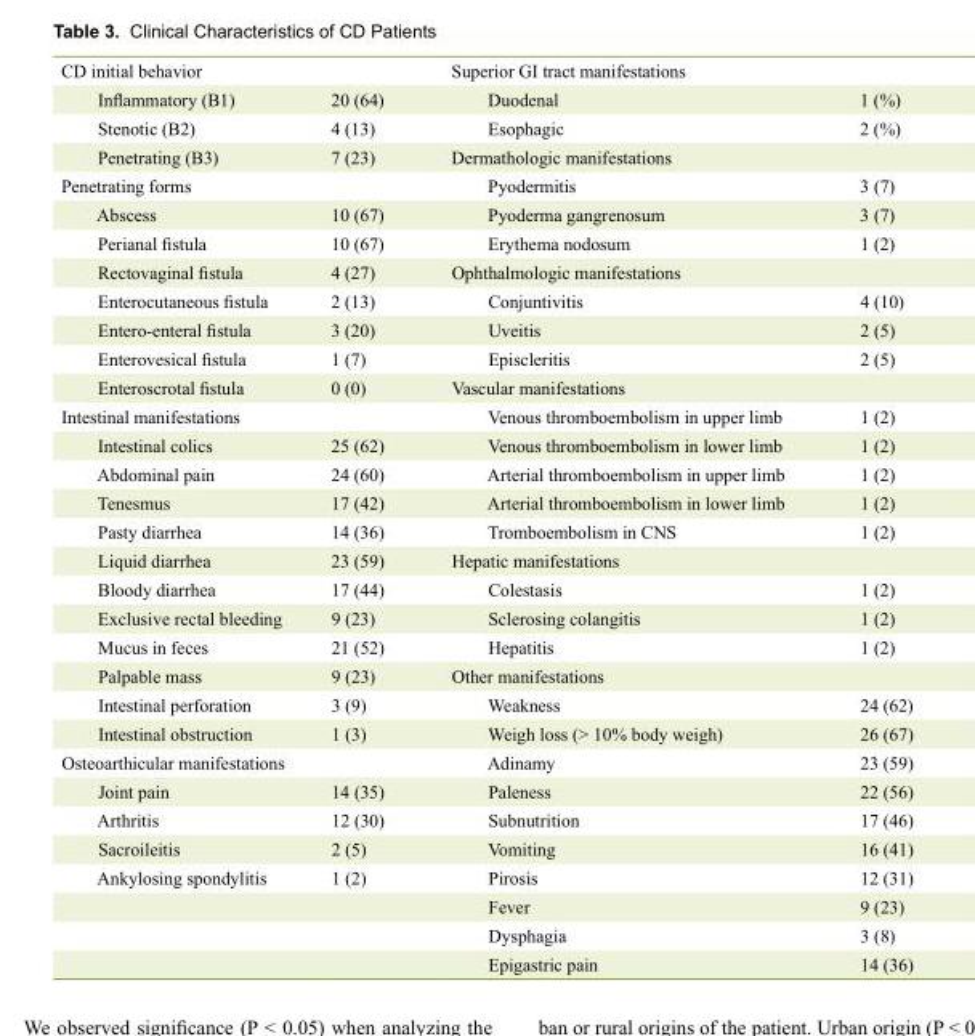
<table><tbody><tr><td>CD initial behavior</td><td></td><td>Superior GI tract manifestations</td><td></td></tr><tr><td>Inflammatory (B1)</td><td>20 (64)</td><td>Duodenal</td><td>1 (%)</td></tr><tr><td>Stenotic (B2)</td><td>4 (13)</td><td>Esophagic</td><td>2 (%)</td></tr><tr><td>Penetrating (B3)</td><td>7 (23)</td><td>Dermathologic manifestations</td><td></td></tr><tr><td>Penetrating forms</td><td></td><td>Pyodermitis</td><td>3 (7)</td></tr><tr><td>Abscess</td><td>10 (67)</td><td>Pyoderma gangrenosum</td><td>3 (7)</td></tr><tr><td>Perianal fistula</td><td>10 (67)</td><td>Erythema nodosum</td><td>1 (2)</td></tr><tr><td>Rectovaginal fistula</td><td>4 (27)</td><td>Ophthalmologic manifestations</td><td></td></tr><tr><td>Enterocutaneous fistula</td><td>2 (13)</td><td>Conjuntivitis</td><td>4 (10)</td></tr><tr><td>Entero-enteral fistula</td><td>3 (20)</td><td>Uveitis</td><td>2 (5)</td></tr><tr><td>Enterovesical fistula</td><td>1 (7)</td><td>Episcleritis</td><td>2 (5)</td></tr><tr><td>Enteroscrotal fistula</td><td>0 (0)</td><td>Vascular manifestations</td><td></td></tr><tr><td>Intestinal manifestations</td><td></td><td>Venous thromboembolism in upper limb</td><td>1 (2)</td></tr><tr><td>Intestinal colics</td><td>25 (62)</td><td>Venous thromboembolism in lower limb</td><td>1 (2)</td></tr><tr><td>Abdominal pain</td><td>24 (60)</td><td>Arterial thromboembolism in upper limb</td><td>1 (2)</td></tr><tr><td>Tenesmus</td><td>17 (42)</td><td>Arterial thromboembolism in lower limb</td><td>1 (2)</td></tr><tr><td>Pasty diarrhea</td><td>14 (36)</td><td>Tromboembolism in CNS</td><td>1 (2)</td></tr><tr><td>Liquid diarrhea</td><td>23 (59)</td><td>Hepatic manifestations</td><td></td></tr><tr><td>Bloody diarrhea</td><td>17 (44)</td><td>Colestasis</td><td>1 (2)</td></tr><tr><td>Exclusive rectal bleeding</td><td>9 (23)</td><td>Sclerosing colangitis</td><td>1 (2)</td></tr><tr><td>Mucus in feces</td><td>21 (52)</td><td>Hepatitis</td><td>1 (2)</td></tr><tr><td>Palpable mass</td><td>9 (23)</td><td>Other manifestations</td><td></td></tr><tr><td>Intestinal perforation</td><td>3 (9)</td><td>Weakness</td><td>24 (62)</td></tr><tr><td>Intestinal obstruction</td><td>1 (3)</td><td>Weigh loss (&gt; 10% body weigh)</td><td>26 (67)</td></tr><tr><td>Osteoarthicular manifestations</td><td></td><td>Adinamy</td><td>23 (59)</td></tr><tr><td>Joint pain</td><td>14 (35)</td><td>Paleness</td><td>22 (56)</td></tr><tr><td>Arthritis</td><td>12 (30)</td><td>Subnutrition</td><td>17 (46)</td></tr><tr><td>Sacroileitis</td><td>2 (5)</td><td>Vomiting</td><td>16 (41)</td></tr><tr><td rowspan="4">Ankylosing spondylitis</td><td>1 (2)</td><td>Pirosis</td><td>12 (31)</td></tr><tr><td></td><td>Fever</td><td>9 (23)</td></tr><tr><td></td><td>Dysphagia</td><td>3 (8)</td></tr><tr><td></td><td>Epigastric pain</td><td>14 (36)</td></tr></tbody></table>